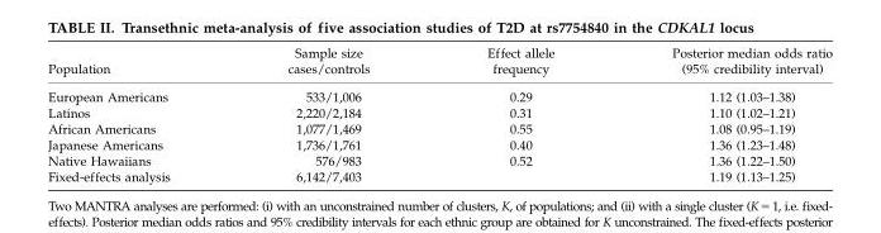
<table><thead><tr><td>Population</td><td>Sample size cases/controls</td><td>Effect allele frequency</td><td>Posterior median odds ratio (95% credibility interval)</td></tr></thead><tbody><tr><td>European Americans</td><td>533/1,006</td><td>0.29</td><td>1.12 (1.03–1.38)</td></tr><tr><td>Latinos</td><td>2,220/2,184</td><td>0.31</td><td>1.10 (1.02–1.21)</td></tr><tr><td>African Americans</td><td>1,077/1,469</td><td>0.55</td><td>1.08 (0.95–1.19)</td></tr><tr><td>Japanese Americans</td><td>1,736/1,761</td><td>0.40</td><td>1.36 (1.23–1.48)</td></tr><tr><td>Native Hawaiians</td><td>576/983</td><td>0.52</td><td>1.36 (1.22–1.50)</td></tr><tr><td>Fixed-effects analysis</td><td>6,142/7,403</td><td></td><td>1.19 (1.13–1.25)</td></tr></tbody></table>